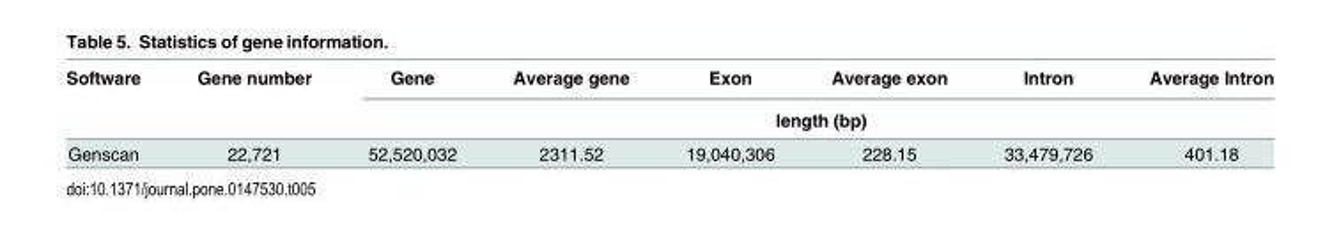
<table><thead><tr><td rowspan="2">Software</td><td rowspan="2">Gene number</td><td>Gene</td><td>Average gene</td><td>Exon</td><td>Average exon</td><td>Intron</td><td>Average Intron</td></tr><tr><td colspan="6">length (bp)</td></tr></thead><tbody><tr><td>Genscan</td><td>22,721</td><td>52,520,032</td><td>2311.52</td><td>19,040,306</td><td>228.15</td><td>33,479,726</td><td>401.18</td></tr></tbody></table>